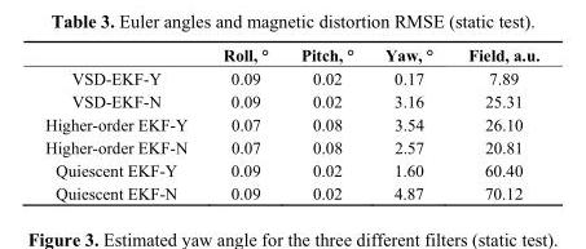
<table><thead><tr><td></td><td>Roll, °</td><td>Pitch, °</td><td>Yaw, °</td><td>Field, a.u.</td></tr></thead><tbody><tr><td>VSD-EKF-Y</td><td>0.09</td><td>0.02</td><td>0.17</td><td>7.89</td></tr><tr><td>VSD-EKF-N</td><td>0.09</td><td>0.02</td><td>3.16</td><td>25.31</td></tr><tr><td>Higher-order EKF-Y</td><td>0.07</td><td>0.08</td><td>3.54</td><td>26.10</td></tr><tr><td>Higher-order EKF-N</td><td>0.07</td><td>0.08</td><td>2.57</td><td>20.81</td></tr><tr><td>Quiescent EKF-Y</td><td>0.09</td><td>0.02</td><td>1.60</td><td>60.40</td></tr><tr><td>Quiescent EKF-N</td><td>0.09</td><td>0.02</td><td>4.87</td><td>70.12</td></tr></tbody></table>